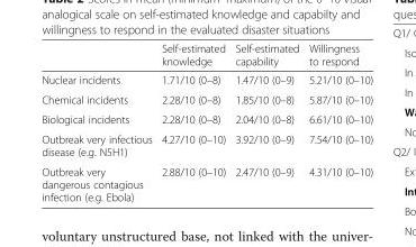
<table><thead><tr><td></td><td>Self-estimated knowledge</td><td>Self-estimated capability</td><td>Willingness to respond</td></tr></thead><tbody><tr><td>Nuclear incidents</td><td>1.71/10 (0–8)</td><td>1.47/10 (0–9)</td><td>5.21/10 (0–10)</td></tr><tr><td>Chemical incidents</td><td>2.28/10 (0–8)</td><td>1.85/10 (0–8)</td><td>5.87/10 (0–10)</td></tr><tr><td>Biological incidents</td><td>2.28/10 (0–8)</td><td>2.04/10 (0–8)</td><td>6.61/10 (0–10)</td></tr><tr><td>Outbreak very infectious disease (e.g. N5H1)</td><td>4.27/10 (0–10)</td><td>3.92/10 (0–9)</td><td>7.54/10 (0–10)</td></tr><tr><td>Outbreak very dangerous contagious infection (e.g. Ebola)</td><td>2.88/10 (0–10)</td><td>2.47/10 (0–9)</td><td>4.31/10 (0–10)</td></tr></tbody></table>